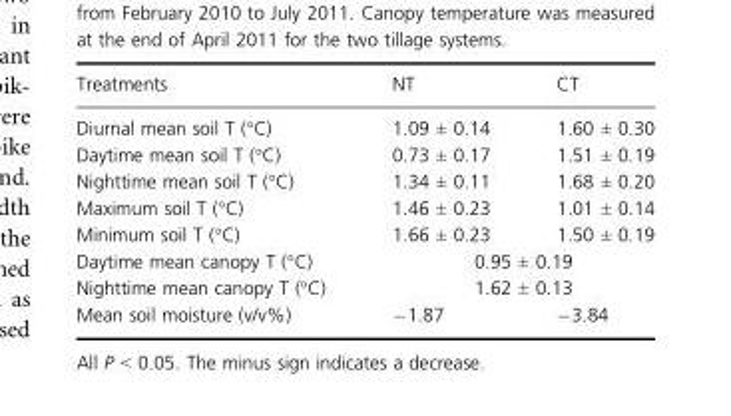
<table><thead><tr><td>Treatments</td><td>NT</td><td>CT</td></tr></thead><tbody><tr><td>Diurnal mean soil T (°C)</td><td>1.09 ± 0.14</td><td>1.60 ± 0.30</td></tr><tr><td>Daytime mean soil T (°C)</td><td>0.73 ± 0.17</td><td>1.51 ± 0.19</td></tr><tr><td>Nighttime mean soil T (°C)</td><td>1.34 ± 0.11</td><td>1.68 ± 0.20</td></tr><tr><td>Maximum soil T (°C)</td><td>1.46 ± 0.23</td><td>1.01 ± 0.14</td></tr><tr><td>Minimum soil T (°C)</td><td>1.66 ± 0.23</td><td>1.50 ± 0.19</td></tr><tr><td>Daytime mean canopy T (°C)</td><td colspan="2">0.95 ± 0.19</td></tr><tr><td>Nighttime mean canopy T (°C)</td><td colspan="2">1.62 ± 0.13</td></tr><tr><td>Mean soil moisture (v/v%)</td><td>−1.87</td><td>−3.84</td></tr></tbody></table>